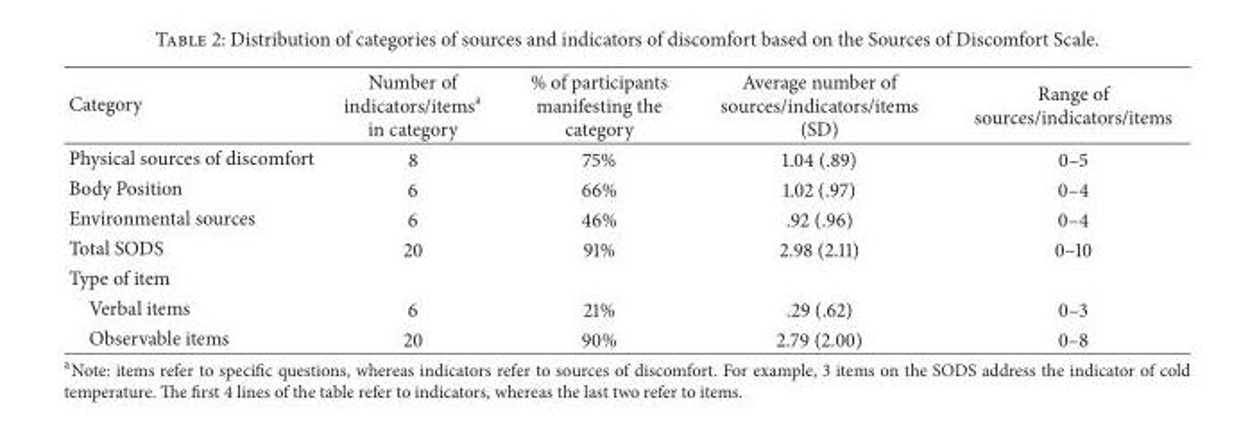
<table><thead><tr><td>Category</td><td>Number of indicators/items<sup>a</sup> in category</td><td>% of participants manifesting the category</td><td>Average number of sources/indicators/items (SD)</td><td>Range of sources/indicators/items</td></tr></thead><tbody><tr><td>Physical sources of discomfort</td><td>8</td><td>75%</td><td>1.04 (.89)</td><td>0–5</td></tr><tr><td>Body Position</td><td>6</td><td>66%</td><td>1.02 (.97)</td><td>0–4</td></tr><tr><td>Environmental sources</td><td>6</td><td>46%</td><td>.92 (.96)</td><td>0–4</td></tr><tr><td>Total SODS</td><td>20</td><td>91%</td><td>2.98 (2.11)</td><td>0–10</td></tr><tr><td colspan="5">Type of item</td></tr><tr><td>Verbal items</td><td>6</td><td>21%</td><td>.29 (.62)</td><td>0–3</td></tr><tr><td>Observable items</td><td>20</td><td>90%</td><td>2.79 (2.00)</td><td>0–8</td></tr></tbody></table>